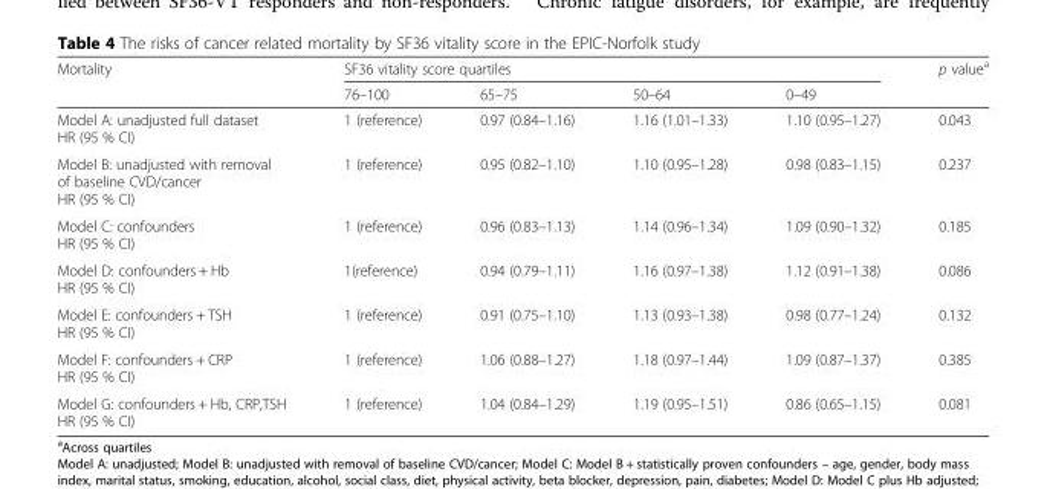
<table><thead><tr><td rowspan="2">Mortality</td><td colspan="4">SF36 vitality score quartiles</td><td rowspan="2">p value<sup>a</sup></td></tr><tr><td>76–100</td><td>65–75</td><td>50–64</td><td>0–49</td></tr></thead><tbody><tr><td>Model A: unadjusted full dataset HR (95 % CI)</td><td>1 (reference)</td><td>0.97 (0.84–1.16)</td><td>1.16 (1.01–1.33)</td><td>1.10 (0.95–1.27)</td><td>0.043</td></tr><tr><td>Model B: unadjusted with removal of baseline CVD/cancer HR (95 % CI)</td><td>1 (reference)</td><td>0.95 (0.82–1.10)</td><td>1.10 (0.95–1.28)</td><td>0.98 (0.83–1.15)</td><td>0.237</td></tr><tr><td>Model C: confounders HR (95 % CI)</td><td>1 (reference)</td><td>0.96 (0.83–1.13)</td><td>1.14 (0.96–1.34)</td><td>1.09 (0.90–1.32)</td><td>0.185</td></tr><tr><td>Model D: confounders + Hb HR (95 % CI)</td><td>1(reference)</td><td>0.94 (0.79–1.11)</td><td>1.16 (0.97–1.38)</td><td>1.12 (0.91–1.38)</td><td>0.086</td></tr><tr><td>Model E: confounders + TSH HR (95 % CI)</td><td>1 (reference)</td><td>0.91 (0.75–1.10)</td><td>1.13 (0.93–1.38)</td><td>0.98 (0.77–1.24)</td><td>0.132</td></tr><tr><td>Model F: confounders + CRP HR (95 % CI)</td><td>1 (reference)</td><td>1.06 (0.88–1.27)</td><td>1.18 (0.97–1.44)</td><td>1.09 (0.87–1.37)</td><td>0.385</td></tr><tr><td>Model G: confounders + Hb, CRP,TSH HR (95 % CI)</td><td>1 (reference)</td><td>1.04 (0.84–1.29)</td><td>1.19 (0.95–1.51)</td><td>0.86 (0.65–1.15)</td><td>0.081</td></tr></tbody></table>